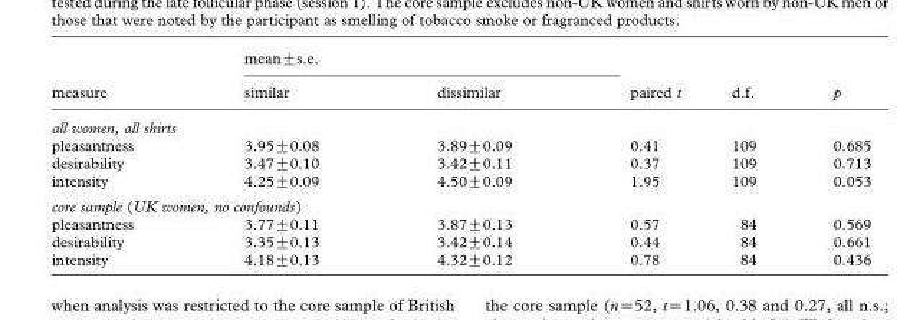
<table><thead><tr><td rowspan="2">measure</td><td colspan="2">mean±s.e.</td><td rowspan="2">paired t</td><td rowspan="2">d.f.</td><td rowspan="2">p</td></tr><tr><td>similar</td><td>dissimilar</td></tr></thead><tbody><tr><td colspan="6">all women, all shirts</td></tr><tr><td>pleasantness</td><td>3.95±0.08</td><td>3.89±0.09</td><td>0.41</td><td>109</td><td>0.685</td></tr><tr><td>desirability</td><td>3.47±0.10</td><td>3.42±0.11</td><td>0.37</td><td>109</td><td>0.713</td></tr><tr><td>intensity</td><td>4.25±0.09</td><td>4.50±0.09</td><td>1.95</td><td>109</td><td>0.053</td></tr><tr><td colspan="6">core sample (UK women, no confounds)</td></tr><tr><td>pleasantness</td><td>3.77±0.11</td><td>3.87±0.13</td><td>0.57</td><td>84</td><td>0.569</td></tr><tr><td>desirability</td><td>3.35±0.13</td><td>3.42±0.14</td><td>0.44</td><td>84</td><td>0.661</td></tr><tr><td>intensity</td><td>4.18±0.13</td><td>4.32±0.12</td><td>0.78</td><td>84</td><td>0.436</td></tr></tbody></table>